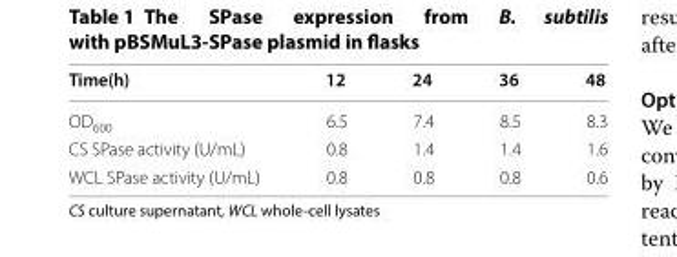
<table><thead><tr><td>Time(h)</td><td>12</td><td>24</td><td>36</td><td>48</td></tr></thead><tbody><tr><td>OD<sub>600</sub></td><td>6.5</td><td>7.4</td><td>8.5</td><td>8.3</td></tr><tr><td>CS SPase activity (U/mL)</td><td>0.8</td><td>1.4</td><td>1.4</td><td>1.6</td></tr><tr><td>WCL SPase activity (U/mL)</td><td>0.8</td><td>0.8</td><td>0.8</td><td>0.6</td></tr></tbody></table>